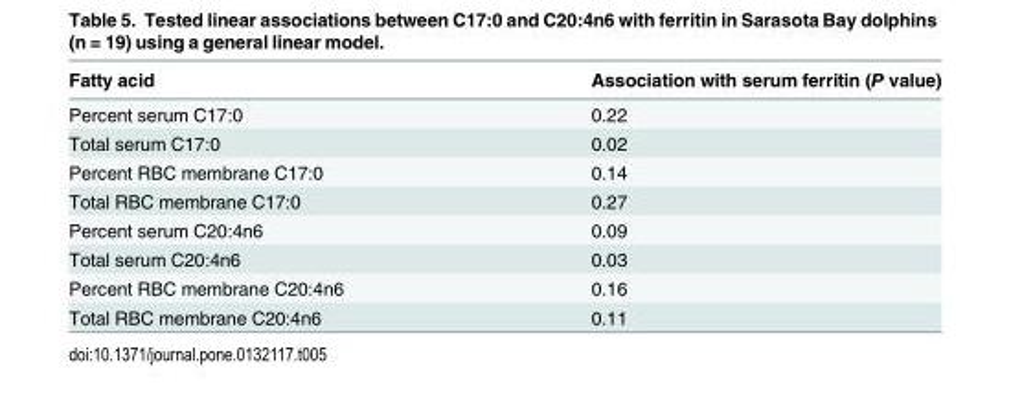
<table><thead><tr><td>Fatty acid</td><td>Association with serum ferritin (P value)</td></tr></thead><tbody><tr><td>Percent serum C17:0</td><td>0.22</td></tr><tr><td>Total serum C17:0</td><td>0.02</td></tr><tr><td>Percent RBC membrane C17:0</td><td>0.14</td></tr><tr><td>Total RBC membrane C17:0</td><td>0.27</td></tr><tr><td>Percent serum C20:4n6</td><td>0.09</td></tr><tr><td>Total serum C20:4n6</td><td>0.03</td></tr><tr><td>Percent RBC membrane C20:4n6</td><td>0.16</td></tr><tr><td>Total RBC membrane C20:4n6</td><td>0.11</td></tr></tbody></table>